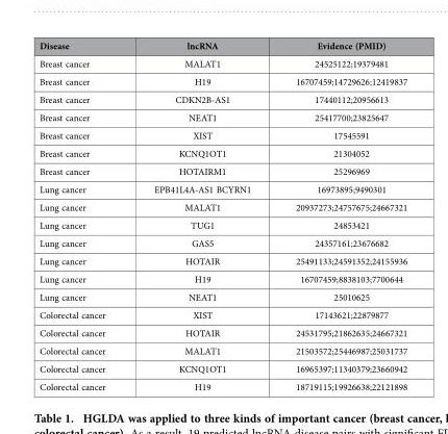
<table><thead><tr><td>Disease</td><td>lncRNA</td><td>Evidence (PMID)</td></tr></thead><tbody><tr><td>Breast cancer</td><td>MALAT1</td><td>24525122;19379481</td></tr><tr><td>Breast cancer</td><td>H19</td><td>16707459;14729626;12419837</td></tr><tr><td>Breast cancer</td><td>CDKN2B-AS1</td><td>17440112;20956613</td></tr><tr><td>Breast cancer</td><td>NEAT1</td><td>25417700;23825647</td></tr><tr><td>Breast cancer</td><td>XIST</td><td>17545591</td></tr><tr><td>Breast cancer</td><td>KCNQ1OT1</td><td>21304052</td></tr><tr><td>Breast cancer</td><td>HOTAIRM1</td><td>25296969</td></tr><tr><td>Lung cancer</td><td>EPB41L4A-AS1 BCYRN1</td><td>16973895;9490301</td></tr><tr><td>Lung cancer</td><td>MALAT1</td><td>20937273;24757675;24667321</td></tr><tr><td>Lung cancer</td><td>TUG1</td><td>24853421</td></tr><tr><td>Lung cancer</td><td>GAS5</td><td>24357161;23676682</td></tr><tr><td>Lung cancer</td><td>HOTAIR</td><td>25491133;24591352;24155936</td></tr><tr><td>Lung cancer</td><td>H19</td><td>16707459;8838103;7700644</td></tr><tr><td>Lung cancer</td><td>NEAT1</td><td>25010625</td></tr><tr><td>Colorectal cancer</td><td>XIST</td><td>17143621;22879877</td></tr><tr><td>Colorectal cancer</td><td>HOTAIR</td><td>24531795;21862635;24667321</td></tr><tr><td>Colorectal cancer</td><td>MALAT1</td><td>21503572;25446987;25031737</td></tr><tr><td>Colorectal cancer</td><td>KCNQ1OT1</td><td>16965397;11340379;23660942</td></tr><tr><td>Colorectal cancer</td><td>H19</td><td>18719115;19926638;22121898</td></tr></tbody></table>